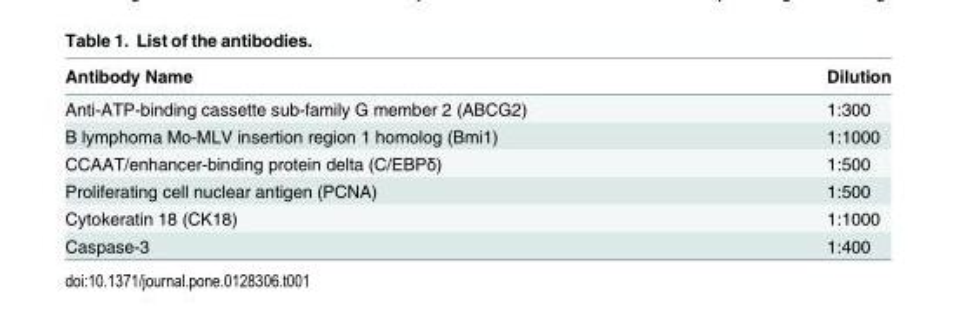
<table><thead><tr><td>Antibody Name</td><td>Dilution</td></tr></thead><tbody><tr><td>Anti-ATP-binding cassette sub-family G member 2 (ABCG2)</td><td>1:300</td></tr><tr><td>B lymphoma Mo-MLV insertion region 1 homolog (Bmi1)</td><td>1:1000</td></tr><tr><td>CCAAT/enhancer-binding protein delta (C/EBPδ)</td><td>1:500</td></tr><tr><td>Proliferating cell nuclear antigen (PCNA)</td><td>1:500</td></tr><tr><td>Cytokeratin 18 (CK18)</td><td>1:1000</td></tr><tr><td>Caspase-3</td><td>1:400</td></tr></tbody></table>